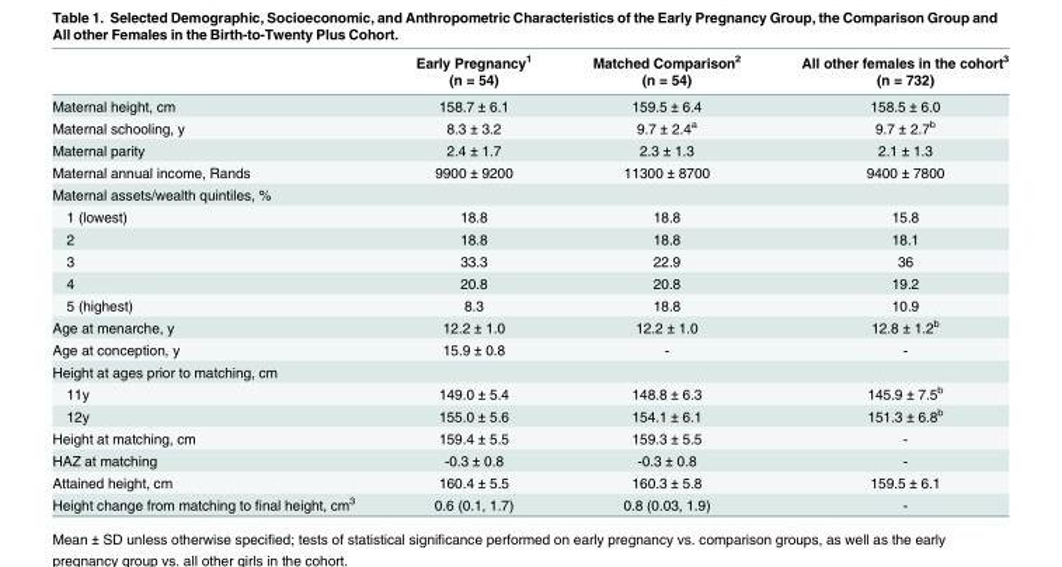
<table><thead><tr><td rowspan="2"></td><td rowspan="2">Early Pregnancy<sup>1</sup> (n = 54)</td><td rowspan="2">Matched Comparison<sup>2</sup> (n = 54)</td><td rowspan="2">All other females in the cohort<sup>3</sup> (n = 732)</td></tr><tr></tr></thead><tbody><tr><td>Maternal height, cm</td><td>158.7 ± 6.1</td><td>159.5 ± 6.4</td><td>158.5 ± 6.0</td></tr><tr><td>Maternal schooling, y</td><td>8.3 ± 3.2</td><td>9.7 ± 2.4<sup>a</sup></td><td>9.7 ± 2.7<sup>b</sup></td></tr><tr><td>Maternal parity</td><td>2.4 ± 1.7</td><td>2.3 ± 1.3</td><td>2.1 ± 1.3</td></tr><tr><td>Maternal annual income, Rands</td><td>9900 ± 9200</td><td>11300 ± 8700</td><td>9400 ± 7800</td></tr><tr><td colspan="4">Maternal assets/wealth quintiles, %</td></tr><tr><td>1 (lowest)</td><td>18.8</td><td>18.8</td><td>15.8</td></tr><tr><td>2</td><td>18.8</td><td>18.8</td><td>18.1</td></tr><tr><td>3</td><td>33.3</td><td>22.9</td><td>36</td></tr><tr><td>4</td><td>20.8</td><td>20.8</td><td>19.2</td></tr><tr><td>5 (highest)</td><td>8.3</td><td>18.8</td><td>10.9</td></tr><tr><td>Age at menarche, y</td><td>12.2 ± 1.0</td><td>12.2 ± 1.0</td><td>12.8 ± 1.2<sup>b</sup></td></tr><tr><td>Age at conception, y</td><td>15.9 ± 0.8</td><td>-</td><td>-</td></tr><tr><td colspan="4">Height at ages prior to matching, cm</td></tr><tr><td>11y</td><td>149.0 ± 5.4</td><td>148.8 ± 6.3</td><td>145.9 ± 7.5<sup>b</sup></td></tr><tr><td>12y</td><td>155.0 ± 5.6</td><td>154.1 ± 6.1</td><td>151.3 ± 6.8<sup>b</sup></td></tr><tr><td>Height at matching, cm</td><td>159.4 ± 5.5</td><td>159.3 ± 5.5</td><td>-</td></tr><tr><td>HAZ at matching</td><td>-0.3 ± 0.8</td><td>-0.3 ± 0.8</td><td>-</td></tr><tr><td>Attained height, cm</td><td>160.4 ± 5.5</td><td>160.3 ± 5.8</td><td>159.5 ± 6.1</td></tr><tr><td>Height change from matching to final height, cm<sup>3</sup></td><td>0.6 (0.1, 1.7)</td><td>0.8 (0.03, 1.9)</td><td>-</td></tr></tbody></table>